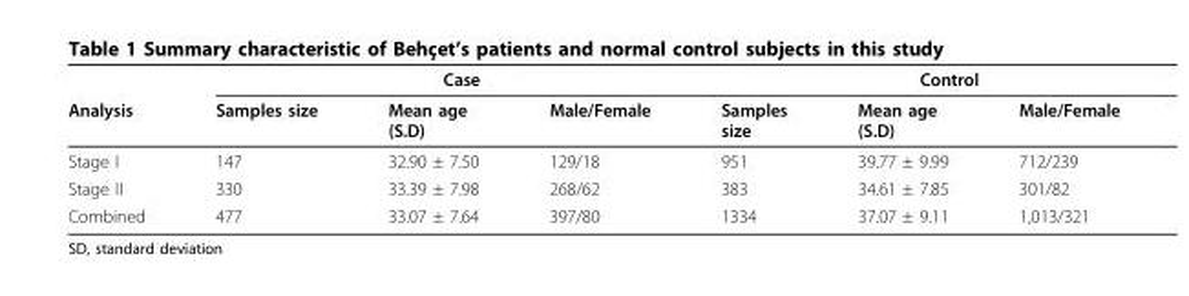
<table><thead><tr><td rowspan="2">Analysis</td><td colspan="3">Case</td><td colspan="3">Control</td></tr><tr><td>Samples size</td><td>Mean age (S.D)</td><td>Male/Female</td><td>Samples size</td><td>Mean age (S.D)</td><td>Male/Female</td></tr></thead><tbody><tr><td>Stage I</td><td>147</td><td>32.90 ± 7.50</td><td>129/18</td><td>951</td><td>39.77 ± 9.99</td><td>712/239</td></tr><tr><td>Stage II</td><td>330</td><td>33.39 ± 7.98</td><td>268/62</td><td>383</td><td>34.61 ± 7.85</td><td>301/82</td></tr><tr><td>Combined</td><td>477</td><td>33.07 ± 7.64</td><td>397/80</td><td>1334</td><td>37.07 ± 9.11</td><td>1,013/321</td></tr></tbody></table>